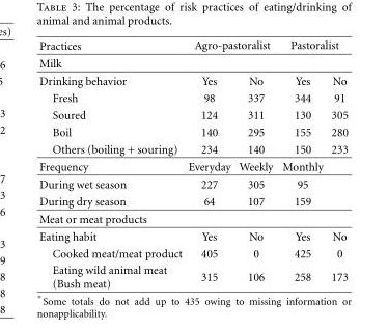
<table><thead><tr><td rowspan="2">Practices Milk</td><td colspan="2">Agro-pastoralist</td><td colspan="2">Pastoralist</td></tr><tr><td></td><td></td><td></td><td></td></tr></thead><tbody><tr><td>Drinking behavior</td><td>Yes</td><td>No</td><td>Yes</td><td>No</td></tr><tr><td>Fresh</td><td>98</td><td>337</td><td>344</td><td>91</td></tr><tr><td>Soured</td><td>124</td><td>311</td><td>130</td><td>305</td></tr><tr><td>Boil</td><td>140</td><td>295</td><td>155</td><td>280</td></tr><tr><td>Others (boiling + souring)</td><td>234</td><td>140</td><td>150</td><td>233</td></tr><tr><td>Frequency</td><td>Everyday</td><td>Weekly</td><td>Monthly</td><td></td></tr><tr><td>During wet season</td><td>227</td><td>305</td><td>95</td><td></td></tr><tr><td>During dry season</td><td>64</td><td>107</td><td>159</td><td></td></tr><tr><td colspan="5">Meat or meat products</td></tr><tr><td>Eating habit</td><td>Yes</td><td>No</td><td>Yes</td><td>No</td></tr><tr><td>Cooked meat/meat product</td><td>405</td><td>0</td><td>425</td><td>0</td></tr><tr><td>Eating wild animal meat (Bush meat)</td><td>315</td><td>106</td><td>258</td><td>173</td></tr></tbody></table>